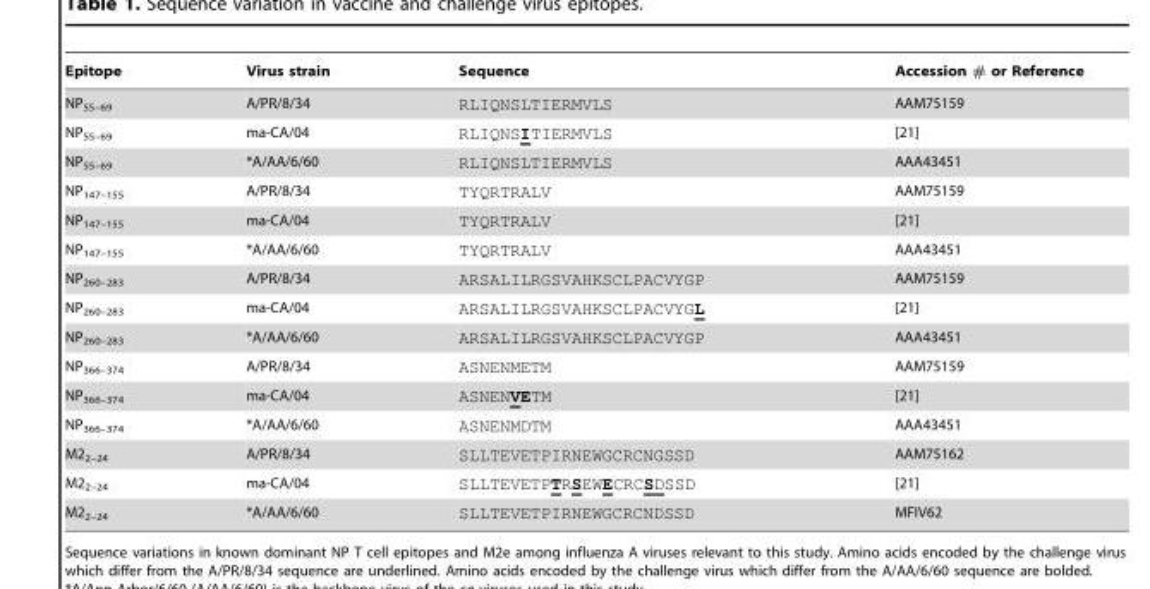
<table><thead><tr><td>Epitope</td><td>Virus strain</td><td>Sequence</td><td>Accession # or Reference</td></tr></thead><tbody><tr><td>NP<sub>55–69</sub></td><td>A/PR/8/34</td><td>RLIQNSLTIERMVLS</td><td>AAM75159</td></tr><tr><td>NP<sub>55–69</sub></td><td>ma-CA/04</td><td>RLIQNSITIERMVLS</td><td>[21]</td></tr><tr><td>NP<sub>55–69</sub></td><td>*A/AA/6/60</td><td>RLIQNSLTIERMVLS</td><td>AAA43451</td></tr><tr><td>NP<sub>147–155</sub></td><td>A/PR/8/34</td><td>TYQRTRALV</td><td>AAM75159</td></tr><tr><td>NP<sub>147–155</sub></td><td>ma-CA/04</td><td>TYQRTRALV</td><td>[21]</td></tr><tr><td>NP<sub>147–155</sub></td><td>*A/AA/6/60</td><td>TYQRTRALV</td><td>AAA43451</td></tr><tr><td>NP<sub>260–283</sub></td><td>A/PR/8/34</td><td>ARSALILRGSVAHKSCLPACVYGP</td><td>AAM75159</td></tr><tr><td>NP<sub>260–283</sub></td><td>ma-CA/04</td><td>ARSALILRGSVAHKSCLPACVYGL</td><td>[21]</td></tr><tr><td>NP<sub>260–283</sub></td><td>*A/AA/6/60</td><td>ARSALILRGSVAHKSCLPACVYGP</td><td>AAA43451</td></tr><tr><td>NP<sub>366–374</sub></td><td>A/PR/8/34</td><td>ASNENMETM</td><td>AAM75159</td></tr><tr><td>NP<sub>366–374</sub></td><td>ma-CA/04</td><td>ASNENVETM</td><td>[21]</td></tr><tr><td>NP<sub>366–374</sub></td><td>*A/AA/6/60</td><td>ASNENMDTM</td><td>AAA43451</td></tr><tr><td>M2<sub>2–24</sub></td><td>A/PR/8/34</td><td>SLLTEVETPIRNEWGCRCNGSSD</td><td>AAM75162</td></tr><tr><td>M2<sub>2–24</sub></td><td>ma-CA/04</td><td>SLLTEVETPTRSEWECRCSDSSD</td><td>[21]</td></tr><tr><td>M2<sub>2–24</sub></td><td>*A/AA/6/60</td><td>SLLTEVETPIRNEWGCRCNDSSD</td><td>MFIV62</td></tr></tbody></table>